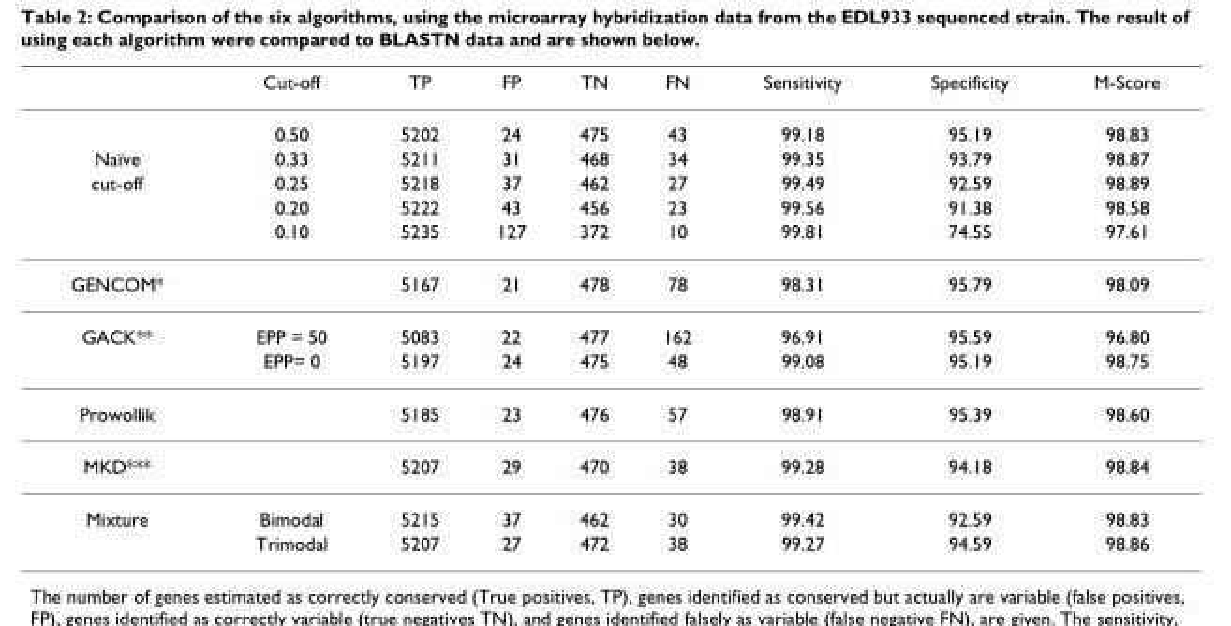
<table><thead><tr><td></td><td>Cut-off</td><td>TP</td><td>FP</td><td>TN</td><td>FN</td><td>Sensitivity</td><td>Specificity</td><td>M-Score</td></tr></thead><tbody><tr><td></td><td>0.50</td><td>5202</td><td>24</td><td>475</td><td>43</td><td>99.18</td><td>95.19</td><td>98.83</td></tr><tr><td>Naïve</td><td>0.33</td><td>5211</td><td>31</td><td>468</td><td>34</td><td>99.35</td><td>93.79</td><td>98.87</td></tr><tr><td rowspan="3">cut-off</td><td>0.25</td><td>5218</td><td>37</td><td>462</td><td>27</td><td>99.49</td><td>92.59</td><td>98.89</td></tr><tr><td>0.20</td><td>5222</td><td>43</td><td>456</td><td>23</td><td>99.56</td><td>91.38</td><td>98.58</td></tr><tr><td>0.10</td><td>5235</td><td>127</td><td>372</td><td>10</td><td>99.81</td><td>74.55</td><td>97.61</td></tr><tr><td>GENCOM*</td><td></td><td>5167</td><td>21</td><td>478</td><td>78</td><td>98.31</td><td>95.79</td><td>98.09</td></tr><tr><td rowspan="2">GACK**</td><td>EPP = 50</td><td>5083</td><td>22</td><td>477</td><td>162</td><td>96.91</td><td>95.59</td><td>96.80</td></tr><tr><td>EPP= 0</td><td>5197</td><td>24</td><td>475</td><td>48</td><td>99.08</td><td>95.19</td><td>98.75</td></tr><tr><td>Prowollik</td><td></td><td>5185</td><td>23</td><td>476</td><td>57</td><td>98.91</td><td>95.39</td><td>98.60</td></tr><tr><td>MKD***</td><td></td><td>5207</td><td>29</td><td>470</td><td>38</td><td>99.28</td><td>94.18</td><td>98.84</td></tr><tr><td rowspan="2">Mixture</td><td>Bimodal</td><td>5215</td><td>37</td><td>462</td><td>30</td><td>99.42</td><td>92.59</td><td>98.83</td></tr><tr><td>Trimodal</td><td>5207</td><td>27</td><td>472</td><td>38</td><td>99.27</td><td>94.59</td><td>98.86</td></tr></tbody></table>